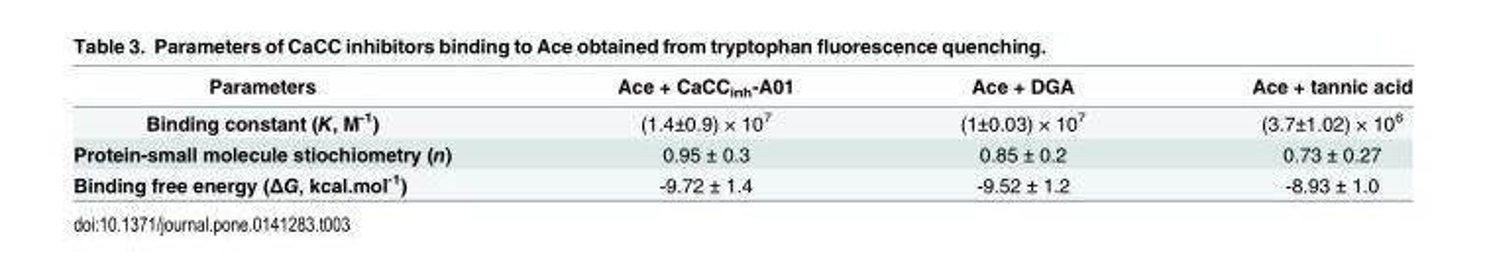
<table><thead><tr><td>Parameters</td><td>Ace + CaCC<sub>inh</sub>-A01</td><td>Ace + DGA</td><td>Ace + tannic acid</td></tr></thead><tbody><tr><td>Binding constant (K, M<sup>-1</sup>)</td><td>(1.4±0.9) × 10<sup>7</sup></td><td>(1±0.03) × 10<sup>7</sup></td><td>(3.7±1.02) × 10<sup>6</sup></td></tr><tr><td>Protein-small molecule stiochiometry (n)</td><td>0.95 ± 0.3</td><td>0.85 ± 0.2</td><td>0.73 ± 0.27</td></tr><tr><td>Binding free energy (ΔG, kcal.mol<sup>-1</sup>)</td><td>-9.72 ± 1.4</td><td>-9.52 ± 1.2</td><td>-8.93 ± 1.0</td></tr></tbody></table>